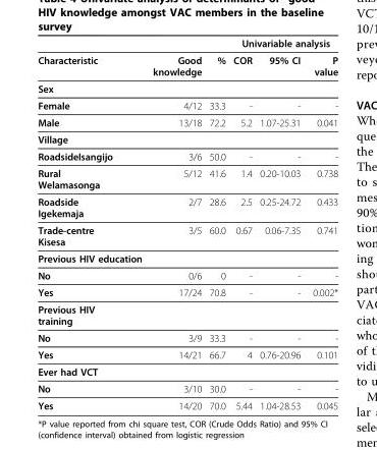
<table><thead><tr><td rowspan="2">Characteristic</td><td rowspan="2">Good knowledge</td><td rowspan="2">%</td><td colspan="3">Univariable analysis</td></tr><tr><td>COR</td><td>95% CI</td><td>P value</td></tr></thead><tbody><tr><td colspan="6">Sex</td></tr><tr><td>Female</td><td>4/12</td><td>33.3</td><td>-</td><td>-</td><td>-</td></tr><tr><td>Male</td><td>13/18</td><td>72.2</td><td>5.2</td><td>1.07-25.31</td><td>0.041</td></tr><tr><td colspan="6">Village</td></tr><tr><td>RoadsideIsangijo</td><td>3/6</td><td>50.0</td><td>-</td><td>-</td><td>-</td></tr><tr><td>Rural Welamasonga</td><td>5/12</td><td>41.6</td><td>1.4</td><td>0.20-10.03</td><td>0.738</td></tr><tr><td>Roadside Igekemaja</td><td>2/7</td><td>28.6</td><td>2.5</td><td>0.25-24.72</td><td>0.433</td></tr><tr><td>Trade-centre Kisesa</td><td>3/5</td><td>60.0</td><td>0.67</td><td>0.06-7.35</td><td>0.741</td></tr><tr><td colspan="6">Previous HIV education</td></tr><tr><td>No</td><td>0/6</td><td>0</td><td>-</td><td>-</td><td>-</td></tr><tr><td>Yes</td><td>17/24</td><td>70.8</td><td>-</td><td>-</td><td>0.002*</td></tr><tr><td colspan="6">Previous HIV training</td></tr><tr><td>No</td><td>3/9</td><td>33.3</td><td>-</td><td>-</td><td>-</td></tr><tr><td>Yes</td><td>14/21</td><td>66.7</td><td>4</td><td>0.76-20.96</td><td>0.101</td></tr><tr><td colspan="6">Ever had VCT</td></tr><tr><td>No</td><td>3/10</td><td>30.0</td><td>-</td><td>-</td><td>-</td></tr><tr><td>Yes</td><td>14/20</td><td>70.0</td><td>5.44</td><td>1.04-28.53</td><td>0.045</td></tr></tbody></table>